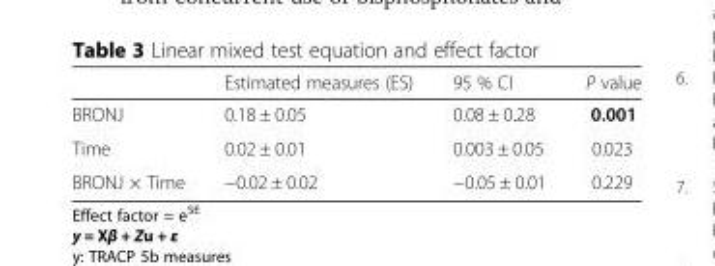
<table><thead><tr><td></td><td>Estimated measures (ES)</td><td>95 % CI</td><td>P value</td></tr></thead><tbody><tr><td>BRONJ</td><td>0.18 ± 0.05</td><td>0.08 ± 0.28</td><td>0.001</td></tr><tr><td>Time</td><td>0.02 ± 0.01</td><td>0.003 ± 0.05</td><td>0.023</td></tr><tr><td>BRONJ × Time</td><td>−0.02 ± 0.02</td><td>−0.05 ± 0.01</td><td>0.229</td></tr></tbody></table>